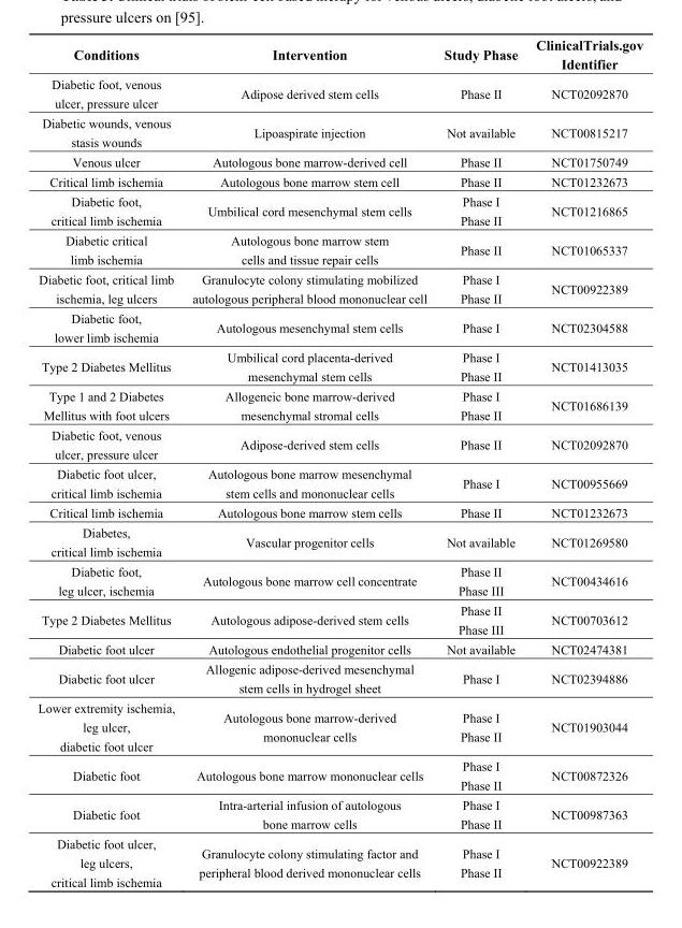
<table><thead><tr><td>Conditions</td><td>Intervention</td><td>Study Phase</td><td>ClinicalTrials.gov Identifier</td></tr></thead><tbody><tr><td>Diabetic foot, venous ulcer, pressure ulcer</td><td>Adipose derived stem cells</td><td>Phase II</td><td>NCT02092870</td></tr><tr><td>Diabetic wounds, venous stasis wounds</td><td>Lipoaspirate injection</td><td>Not available</td><td>NCT00815217</td></tr><tr><td>Venous ulcer</td><td>Autologous bone marrow-derived cell</td><td>Phase II</td><td>NCT01750749</td></tr><tr><td>Critical limb ischemia</td><td>Autologous bone marrow stem cell</td><td>Phase II</td><td>NCT01232673</td></tr><tr><td>Diabetic foot, critical limb ischemia</td><td>Umbilical cord mesenchymal stem cells</td><td>Phase I Phase II</td><td>NCT01216865</td></tr><tr><td>Diabetic critical limb ischemia</td><td>Autologous bone marrow stem cells and tissue repair cells</td><td>Phase II</td><td>NCT01065337</td></tr><tr><td>Diabetic foot, critical limb ischemia, leg ulcers</td><td>Granulocyte colony stimulating mobilized autologous peripheral blood mononuclear cell</td><td>Phase I Phase II</td><td>NCT00922389</td></tr><tr><td>Diabetic foot, lower limb ischemia</td><td>Autologous mesenchymal stem cells</td><td>Phase I</td><td>NCT02304588</td></tr><tr><td>Type 2 Diabetes Mellitus</td><td>Umbilical cord placenta-derived mesenchymal stem cells</td><td>Phase I Phase II</td><td>NCT01413035</td></tr><tr><td>Type 1 and 2 Diabetes Mellitus with foot ulcers</td><td>Allogeneic bone marrow-derived mesenchymal stromal cells</td><td>Phase I Phase II</td><td>NCT01686139</td></tr><tr><td>Diabetic foot, venous ulcer, pressure ulcer</td><td>Adipose-derived stem cells</td><td>Phase II</td><td>NCT02092870</td></tr><tr><td>Diabetic foot ulcer, critical limb ischemia</td><td>Autologous bone marrow mesenchymal stem cells and mononuclear cells</td><td>Phase I</td><td>NCT00955669</td></tr><tr><td>Critical limb ischemia</td><td>Autologous bone marrow stem cells</td><td>Phase II</td><td>NCT01232673</td></tr><tr><td>Diabetes, critical limb ischemia</td><td>Vascular progenitor cells</td><td>Not available</td><td>NCT01269580</td></tr><tr><td>Diabetic foot, leg ulcer, ischemia</td><td>Autologous bone marrow cell concentrate</td><td>Phase II Phase III</td><td>NCT00434616</td></tr><tr><td>Type 2 Diabetes Mellitus</td><td>Autologous adipose-derived stem cells</td><td>Phase II Phase III</td><td>NCT00703612</td></tr><tr><td>Diabetic foot ulcer</td><td>Autologous endothelial progenitor cells</td><td>Not available</td><td>NCT02474381</td></tr><tr><td>Diabetic foot ulcer</td><td>Allogenic adipose-derived mesenchymal stem cells in hydrogel sheet</td><td>Phase I</td><td>NCT02394886</td></tr><tr><td>Lower extremity ischemia, leg ulcer, diabetic foot ulcer</td><td>Autologous bone marrow-derived mononuclear cells</td><td>Phase I Phase II</td><td>NCT01903044</td></tr><tr><td>Diabetic foot</td><td>Autologous bone marrow mononuclear cells</td><td>Phase I Phase II</td><td>NCT00872326</td></tr><tr><td>Diabetic foot</td><td>Intra-arterial infusion of autologous bone marrow cells</td><td>Phase I Phase II</td><td>NCT00987363</td></tr><tr><td>Diabetic foot ulcer, leg ulcers, critical limb ischemia</td><td>Granulocyte colony stimulating factor and peripheral blood derived mononuclear cells</td><td>Phase I Phase II</td><td>NCT00922389</td></tr></tbody></table>